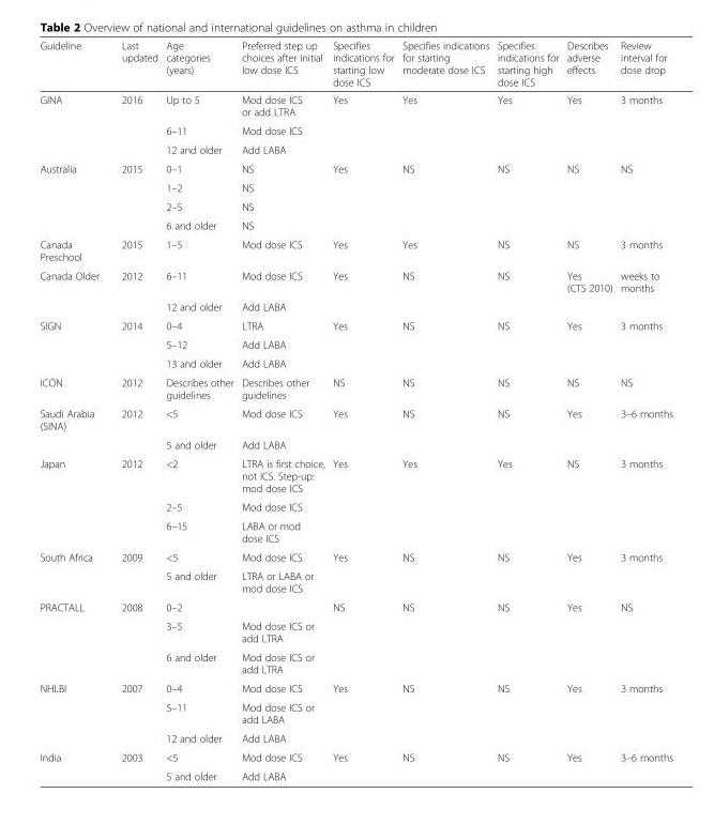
<table><thead><tr><td>Guideline</td><td>Last updated</td><td>Age categories (years)</td><td>Preferred step up choices after initial low dose ICS</td><td>Specifies indications for starting low dose ICS</td><td>Specifies indications for starting moderate dose ICS</td><td>Specifies indications for starting high dose ICS</td><td>Describes adverse effects</td><td>Review interval for dose drop</td></tr></thead><tbody><tr><td rowspan="3">GINA</td><td>2016</td><td>Up to 5</td><td>Mod dose ICS or add LTRA</td><td>Yes</td><td>Yes</td><td>Yes</td><td>Yes</td><td>3 months</td></tr><tr><td></td><td>6–11</td><td>Mod dose ICS</td><td></td><td></td><td></td><td></td><td></td></tr><tr><td></td><td>12 and older</td><td>Add LABA</td><td></td><td></td><td></td><td></td><td></td></tr><tr><td rowspan="4">Australia</td><td>2015</td><td>0–1</td><td>NS</td><td>Yes</td><td>NS</td><td>NS</td><td>NS</td><td>NS</td></tr><tr><td></td><td>1–2</td><td>NS</td><td></td><td></td><td></td><td></td><td></td></tr><tr><td></td><td>2–5</td><td>NS</td><td></td><td></td><td></td><td></td><td></td></tr><tr><td></td><td>6 and older</td><td>NS</td><td></td><td></td><td></td><td></td><td></td></tr><tr><td>Canada Preschool</td><td>2015</td><td>1–5</td><td>Mod dose ICS</td><td>Yes</td><td>Yes</td><td>NS</td><td>NS</td><td>3 months</td></tr><tr><td rowspan="2">Canada Older</td><td>2012</td><td>6–11</td><td>Mod dose ICS</td><td>Yes</td><td>NS</td><td>NS</td><td>Yes (CTS 2010)</td><td>weeks to months</td></tr><tr><td></td><td>12 and older</td><td>Add LABA</td><td></td><td></td><td></td><td></td><td></td></tr><tr><td rowspan="3">SIGN</td><td>2014</td><td>0–4</td><td>LTRA</td><td>Yes</td><td>NS</td><td>NS</td><td>Yes</td><td>3 months</td></tr><tr><td></td><td>5–12</td><td>Add LABA</td><td></td><td></td><td></td><td></td><td></td></tr><tr><td></td><td>13 and older</td><td>Add LABA</td><td></td><td></td><td></td><td></td><td></td></tr><tr><td>ICON</td><td>2012</td><td>Describes other guidelines</td><td>Describes other guidelines</td><td>NS</td><td>NS</td><td>NS</td><td>NS</td><td>NS</td></tr><tr><td rowspan="2">Saudi Arabia (SINA)</td><td>2012</td><td>&lt;5</td><td>Mod dose ICS</td><td>Yes</td><td>NS</td><td>NS</td><td>Yes</td><td>3–6 months</td></tr><tr><td></td><td>5 and older</td><td>Add LABA</td><td></td><td></td><td></td><td></td><td></td></tr><tr><td rowspan="3">Japan</td><td>2012</td><td>&lt;2</td><td>LTRA is first choice, not ICS. Step-up: mod dose ICS</td><td>Yes</td><td>Yes</td><td>Yes</td><td>NS</td><td>3 months</td></tr><tr><td></td><td>2–5</td><td>Mod dose ICS</td><td></td><td></td><td></td><td></td><td></td></tr><tr><td></td><td>6–15</td><td>LABA or mod dose ICS</td><td></td><td></td><td></td><td></td><td></td></tr><tr><td rowspan="2">South Africa</td><td>2009</td><td>&lt;5</td><td>Mod dose ICS</td><td>Yes</td><td>NS</td><td>NS</td><td>Yes</td><td>3 months</td></tr><tr><td></td><td>5 and older</td><td colspan="2">LTRA or LABA or mod dose ICS</td><td></td><td></td><td></td><td></td></tr><tr><td rowspan="3">PRACTALL</td><td>2008</td><td>0–2</td><td></td><td>NS</td><td>NS</td><td>NS</td><td>Yes</td><td>NS</td></tr><tr><td></td><td>3–5</td><td>Mod dose ICS or add LTRA</td><td></td><td></td><td></td><td></td><td></td></tr><tr><td></td><td>6 and older</td><td>Mod dose ICS or add LTRA</td><td></td><td></td><td></td><td></td><td></td></tr><tr><td rowspan="3">NHLBI</td><td>2007</td><td>0–4</td><td>Mod dose ICS</td><td>Yes</td><td>NS</td><td>NS</td><td>Yes</td><td>3 months</td></tr><tr><td></td><td>5–11</td><td>Mod dose ICS or add LABA</td><td></td><td></td><td></td><td></td><td></td></tr><tr><td></td><td>12 and older</td><td>Add LABA</td><td></td><td></td><td></td><td></td><td></td></tr><tr><td rowspan="2">India</td><td>2003</td><td>&lt;5</td><td>Mod dose ICS</td><td>Yes</td><td>NS</td><td>NS</td><td>Yes</td><td>3–6 months</td></tr><tr><td></td><td>5 and older</td><td>Add LABA</td><td></td><td></td><td></td><td></td><td></td></tr></tbody></table>